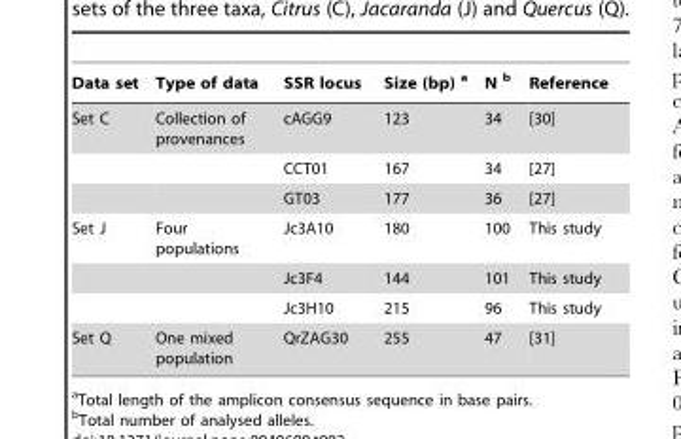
<table><thead><tr><td>Data set</td><td>Type of data</td><td>SSR locus</td><td>Size (bp) a</td><td>N b</td><td>Reference</td></tr></thead><tbody><tr><td rowspan="3">Set C</td><td>Collection of provenances</td><td>cAGG9</td><td>123</td><td>34</td><td>[30]</td></tr><tr><td></td><td>CCT01</td><td>167</td><td>34</td><td>[27]</td></tr><tr><td></td><td>GT03</td><td>177</td><td>36</td><td>[27]</td></tr><tr><td rowspan="3">Set J</td><td>Four populations</td><td>Jc3A10</td><td>180</td><td>100</td><td>This study</td></tr><tr><td></td><td>Jc3F4</td><td>144</td><td>101</td><td>This study</td></tr><tr><td></td><td>Jc3H10</td><td>215</td><td>96</td><td>This study</td></tr><tr><td>Set Q</td><td>One mixed population</td><td>QrZAG30</td><td>255</td><td>47</td><td>[31]</td></tr></tbody></table>